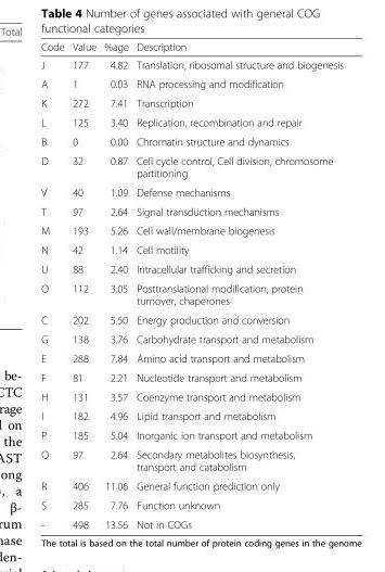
<table><thead><tr><td>Code</td><td>Value</td><td>%age</td><td>Description</td></tr></thead><tbody><tr><td>J</td><td>177</td><td>4.82</td><td>Translation, ribosomal structure and biogenesis</td></tr><tr><td>A</td><td>1</td><td>0.03</td><td>RNA processing and modification</td></tr><tr><td>K</td><td>272</td><td>7.41</td><td>Transcription</td></tr><tr><td>L</td><td>125</td><td>3.40</td><td>Replication, recombination and repair</td></tr><tr><td>B</td><td>0</td><td>0.00</td><td>Chromatin structure and dynamics</td></tr><tr><td>D</td><td>32</td><td>0.87</td><td>Cell cycle control, Cell division, chromosome partitioning</td></tr><tr><td>V</td><td>40</td><td>1.09</td><td>Defense mechanisms</td></tr><tr><td>T</td><td>97</td><td>2.64</td><td>Signal transduction mechanisms</td></tr><tr><td>M</td><td>193</td><td>5.26</td><td>Cell wall/membrane biogenesis</td></tr><tr><td>N</td><td>42</td><td>1.14</td><td>Cell motility</td></tr><tr><td>U</td><td>88</td><td>2.40</td><td>Intracellular trafficking and secretion</td></tr><tr><td>O</td><td>112</td><td>3.05</td><td>Posttranslational modification, protein turnover, chaperones</td></tr><tr><td>C</td><td>202</td><td>5.50</td><td>Energy production and conversion</td></tr><tr><td>G</td><td>138</td><td>3.76</td><td>Carbohydrate transport and metabolism</td></tr><tr><td>E</td><td>288</td><td>7.84</td><td>Amino acid transport and metabolism</td></tr><tr><td>F</td><td>81</td><td>2.21</td><td>Nucleotide transport and metabolism</td></tr><tr><td>H</td><td>131</td><td>3.57</td><td>Coenzyme transport and metabolism</td></tr><tr><td>I</td><td>182</td><td>4.96</td><td>Lipid transport and metabolism</td></tr><tr><td>P</td><td>185</td><td>5.04</td><td>Inorganic ion transport and metabolism</td></tr><tr><td>Q</td><td>97</td><td>2.64</td><td>Secondary metabolites biosynthesis, transport and catabolism</td></tr><tr><td>R</td><td>406</td><td>11.06</td><td>General function prediction only</td></tr><tr><td>S</td><td>285</td><td>7.76</td><td>Function unknown</td></tr><tr><td>-</td><td>498</td><td>13.56</td><td>Not in COGs</td></tr></tbody></table>